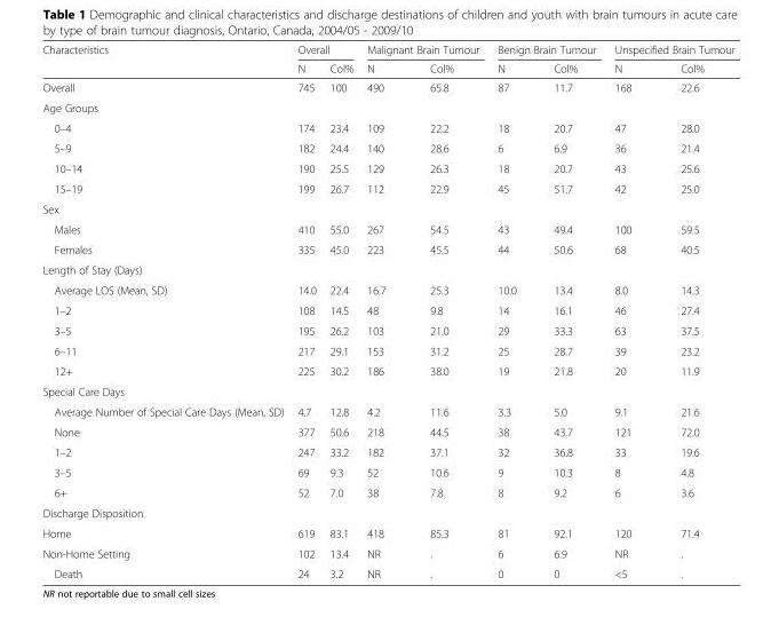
<table><thead><tr><td rowspan="2">Characteristics</td><td colspan="2">Overall</td><td colspan="2">Malignant Brain Tumour</td><td colspan="2">Benign Brain Tumour</td><td colspan="2">Unspecified Brain Tumour</td></tr><tr><td>N</td><td>Col%</td><td>N</td><td>Col%</td><td>N</td><td>Col%</td><td>N</td><td>Col%</td></tr></thead><tbody><tr><td>Overall</td><td>745</td><td>100</td><td>490</td><td>65.8</td><td>87</td><td>11.7</td><td>168</td><td>22.6</td></tr><tr><td colspan="9">Age Groups</td></tr><tr><td>0–4</td><td>174</td><td>23.4</td><td>109</td><td>22.2</td><td>18</td><td>20.7</td><td>47</td><td>28.0</td></tr><tr><td>5–9</td><td>182</td><td>24.4</td><td>140</td><td>28.6</td><td>6</td><td>6.9</td><td>36</td><td>21.4</td></tr><tr><td>10–14</td><td>190</td><td>25.5</td><td>129</td><td>26.3</td><td>18</td><td>20.7</td><td>43</td><td>25.6</td></tr><tr><td>15–19</td><td>199</td><td>26.7</td><td>112</td><td>22.9</td><td>45</td><td>51.7</td><td>42</td><td>25.0</td></tr><tr><td colspan="9">Sex</td></tr><tr><td>Males</td><td>410</td><td>55.0</td><td>267</td><td>54.5</td><td>43</td><td>49.4</td><td>100</td><td>59.5</td></tr><tr><td>Females</td><td>335</td><td>45.0</td><td>223</td><td>45.5</td><td>44</td><td>50.6</td><td>68</td><td>40.5</td></tr><tr><td colspan="9">Length of Stay (Days)</td></tr><tr><td>Average LOS (Mean, SD)</td><td>14.0</td><td>22.4</td><td>16.7</td><td>25.3</td><td>10.0</td><td>13.4</td><td>8.0</td><td>14.3</td></tr><tr><td>1–2</td><td>108</td><td>14.5</td><td>48</td><td>9.8</td><td>14</td><td>16.1</td><td>46</td><td>27.4</td></tr><tr><td>3–5</td><td>195</td><td>26.2</td><td>103</td><td>21.0</td><td>29</td><td>33.3</td><td>63</td><td>37.5</td></tr><tr><td>6–11</td><td>217</td><td>29.1</td><td>153</td><td>31.2</td><td>25</td><td>28.7</td><td>39</td><td>23.2</td></tr><tr><td>12+</td><td>225</td><td>30.2</td><td>186</td><td>38.0</td><td>19</td><td>21.8</td><td>20</td><td>11.9</td></tr><tr><td colspan="9">Special Care Days</td></tr><tr><td>Average Number of Special Care Days (Mean, SD)</td><td>4.7</td><td>12.8</td><td>4.2</td><td>11.6</td><td>3.3</td><td>5.0</td><td>9.1</td><td>21.6</td></tr><tr><td>None</td><td>377</td><td>50.6</td><td>218</td><td>44.5</td><td>38</td><td>43.7</td><td>121</td><td>72.0</td></tr><tr><td>1–2</td><td>247</td><td>33.2</td><td>182</td><td>37.1</td><td>32</td><td>36.8</td><td>33</td><td>19.6</td></tr><tr><td>3–5</td><td>69</td><td>9.3</td><td>52</td><td>10.6</td><td>9</td><td>10.3</td><td>8</td><td>4.8</td></tr><tr><td>6+</td><td>52</td><td>7.0</td><td>38</td><td>7.8</td><td>8</td><td>9.2</td><td>6</td><td>3.6</td></tr><tr><td colspan="9">Discharge Disposition</td></tr><tr><td>Home</td><td>619</td><td>83.1</td><td>418</td><td>85.3</td><td>81</td><td>92.1</td><td>120</td><td>71.4</td></tr><tr><td>Non-Home Setting</td><td>102</td><td>13.4</td><td>NR</td><td>.</td><td>6</td><td>6.9</td><td>NR</td><td>.</td></tr><tr><td>Death</td><td>24</td><td>3.2</td><td>NR</td><td>.</td><td>0</td><td>0</td><td>&lt;5</td><td>.</td></tr></tbody></table>